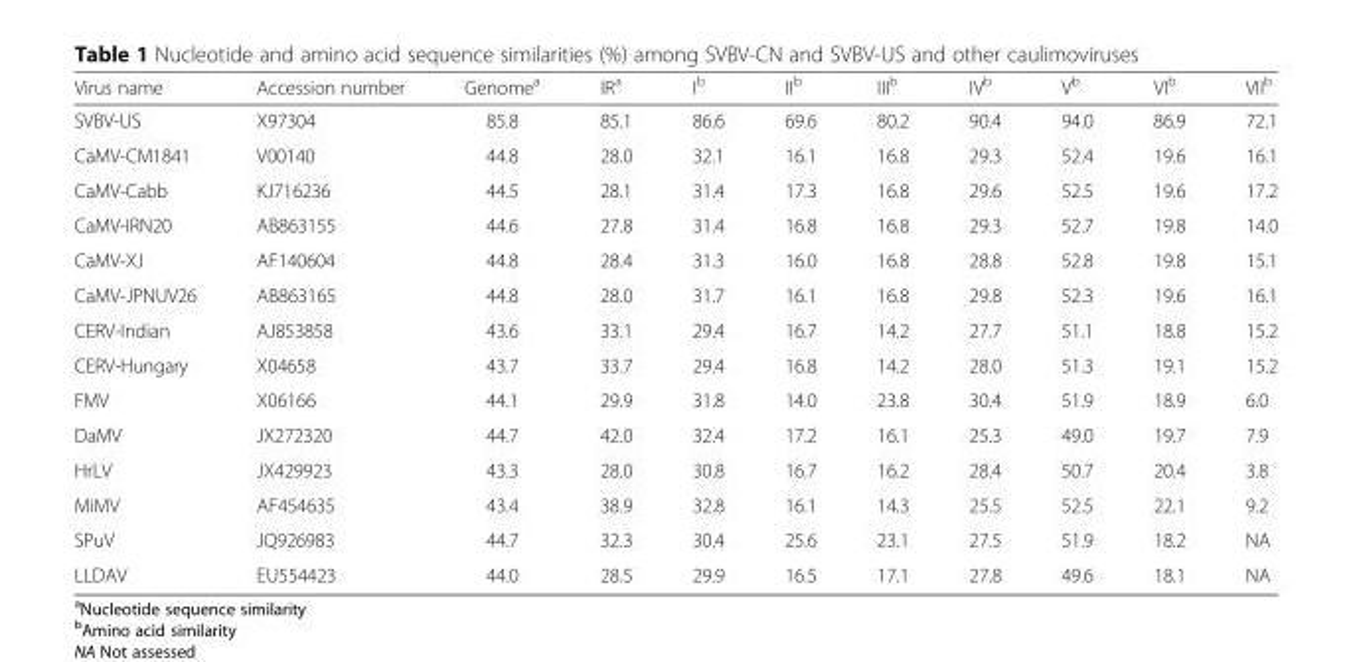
<table><thead><tr><td>Virus name</td><td>Accession number</td><td>Genome<sup>a</sup></td><td>IR<sup>a</sup></td><td>I<sup>b</sup></td><td>II<sup>b</sup></td><td>III<sup>b</sup></td><td>IV<sup>b</sup></td><td>V<sup>b</sup></td><td>VI<sup>b</sup></td><td>VII<sup>b</sup></td></tr></thead><tbody><tr><td>SVBV-US</td><td>X97304</td><td>85.8</td><td>85.1</td><td>86.6</td><td>69.6</td><td>80.2</td><td>90.4</td><td>94.0</td><td>86.9</td><td>72.1</td></tr><tr><td>CaMV-CM1841</td><td>V00140</td><td>44.8</td><td>28.0</td><td>32.1</td><td>16.1</td><td>16.8</td><td>29.3</td><td>52.4</td><td>19.6</td><td>16.1</td></tr><tr><td>CaMV-Cabb</td><td>KJ716236</td><td>44.5</td><td>28.1</td><td>31.4</td><td>17.3</td><td>16.8</td><td>29.6</td><td>52.5</td><td>19.6</td><td>17.2</td></tr><tr><td>CaMV-IRN20</td><td>AB863155</td><td>44.6</td><td>27.8</td><td>31.4</td><td>16.8</td><td>16.8</td><td>29.3</td><td>52.7</td><td>19.8</td><td>14.0</td></tr><tr><td>CaMV-XJ</td><td>AF140604</td><td>44.8</td><td>28.4</td><td>31.3</td><td>16.0</td><td>16.8</td><td>28.8</td><td>52.8</td><td>19.8</td><td>15.1</td></tr><tr><td>CaMV-JPNUV26</td><td>AB863165</td><td>44.8</td><td>28.0</td><td>31.7</td><td>16.1</td><td>16.8</td><td>29.8</td><td>52.3</td><td>19.6</td><td>16.1</td></tr><tr><td>CERV-Indian</td><td>AJ853858</td><td>43.6</td><td>33.1</td><td>29.4</td><td>16.7</td><td>14.2</td><td>27.7</td><td>51.1</td><td>18.8</td><td>15.2</td></tr><tr><td>CERV-Hungary</td><td>X04658</td><td>43.7</td><td>33.7</td><td>29.4</td><td>16.8</td><td>14.2</td><td>28.0</td><td>51.3</td><td>19.1</td><td>15.2</td></tr><tr><td>FMV</td><td>X06166</td><td>44.1</td><td>29.9</td><td>31.8</td><td>14.0</td><td>23.8</td><td>30.4</td><td>51.9</td><td>18.9</td><td>6.0</td></tr><tr><td>DaMV</td><td>JX272320</td><td>44.7</td><td>42.0</td><td>32.4</td><td>17.2</td><td>16.1</td><td>25.3</td><td>49.0</td><td>19.7</td><td>7.9</td></tr><tr><td>HrLV</td><td>JX429923</td><td>43.3</td><td>28.0</td><td>30.8</td><td>16.7</td><td>16.2</td><td>28.4</td><td>50.7</td><td>20.4</td><td>3.8</td></tr><tr><td>MiMV</td><td>AF454635</td><td>43.4</td><td>38.9</td><td>32.8</td><td>16.1</td><td>14.3</td><td>25.5</td><td>52.5</td><td>22.1</td><td>9.2</td></tr><tr><td>SPuV</td><td>JQ926983</td><td>44.7</td><td>32.3</td><td>30.4</td><td>25.6</td><td>23.1</td><td>27.5</td><td>51.9</td><td>18.2</td><td>NA</td></tr><tr><td>LLDAV</td><td>EU554423</td><td>44.0</td><td>28.5</td><td>29.9</td><td>16.5</td><td>17.1</td><td>27.8</td><td>49.6</td><td>18.1</td><td>NA</td></tr></tbody></table>